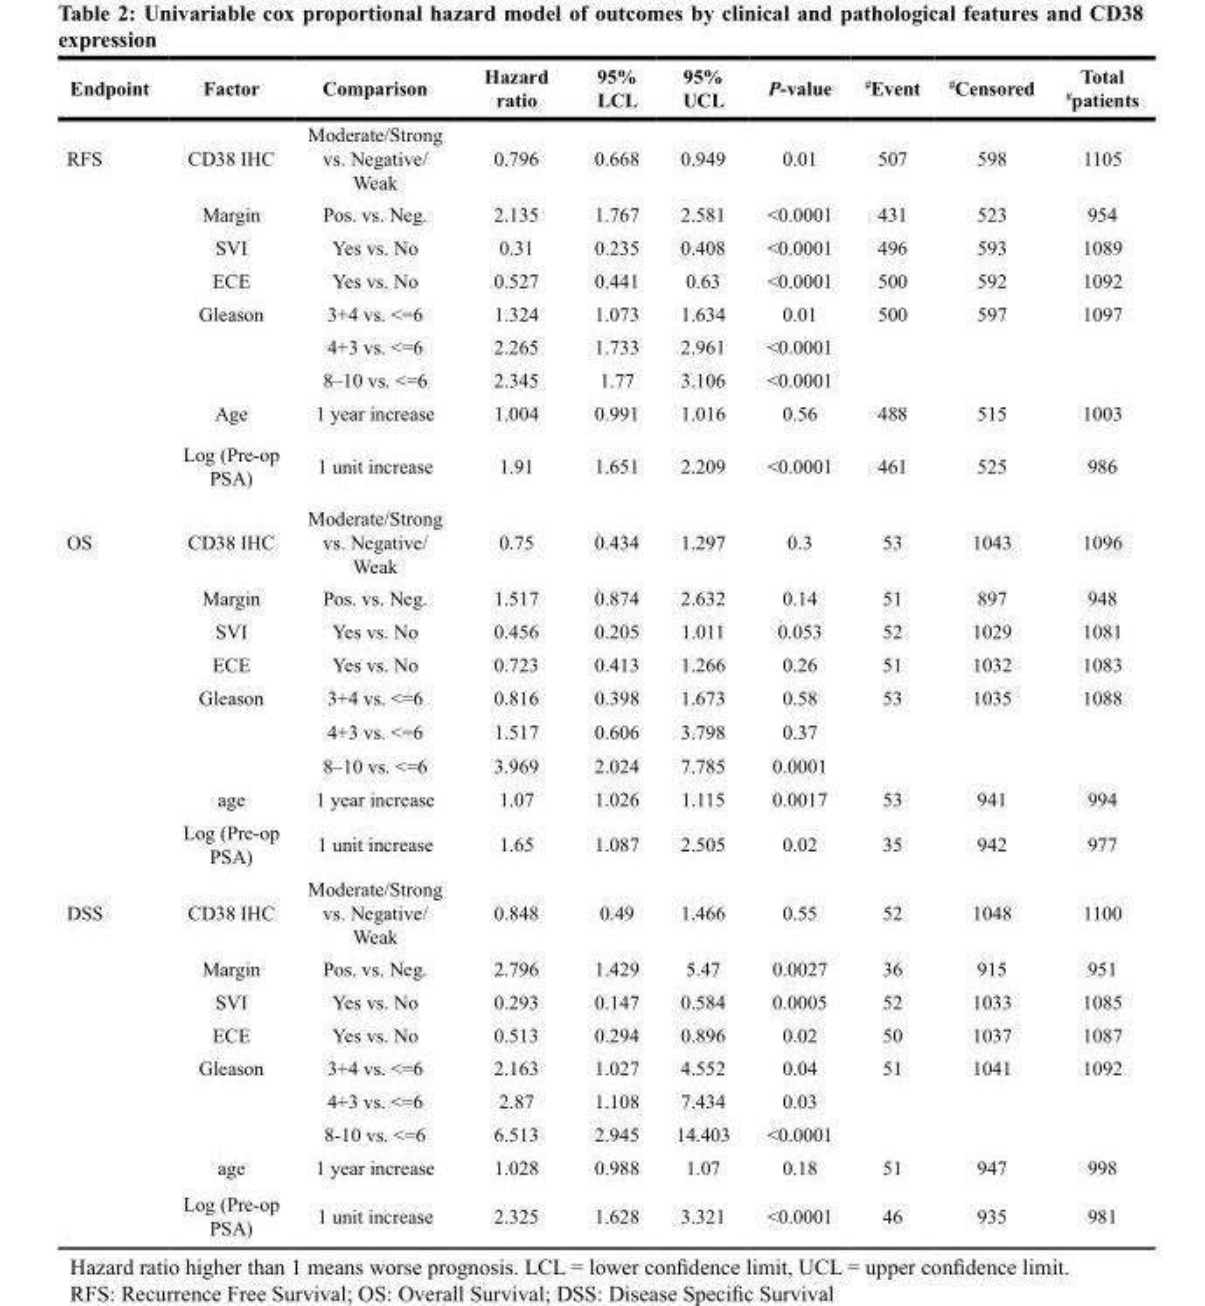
<table><thead><tr><td>Endpoint</td><td>Factor</td><td>Comparison</td><td>Hazard ratio</td><td>95% LCL</td><td>95% UCL</td><td>P-value</td><td><sup>#</sup>Event</td><td><sup>#</sup>Censored</td><td>Total <sup>#</sup>patients</td></tr></thead><tbody><tr><td rowspan="9">RFS</td><td>CD38 IHC</td><td>Moderate/Strong vs. Negative/ Weak</td><td>0.796</td><td>0.668</td><td>0.949</td><td>0.01</td><td>507</td><td>598</td><td>1105</td></tr><tr><td>Margin</td><td>Pos. vs. Neg.</td><td>2.135</td><td>1.767</td><td>2.581</td><td>&lt;0.0001</td><td>431</td><td>523</td><td>954</td></tr><tr><td>SVI</td><td>Yes vs. No</td><td>0.31</td><td>0.235</td><td>0.408</td><td>&lt;0.0001</td><td>496</td><td>593</td><td>1089</td></tr><tr><td>ECE</td><td>Yes vs. No</td><td>0.527</td><td>0.441</td><td>0.63</td><td>&lt;0.0001</td><td>500</td><td>592</td><td>1092</td></tr><tr><td>Gleason</td><td>3+4 vs. &lt;=6</td><td>1.324</td><td>1.073</td><td>1.634</td><td>0.01</td><td>500</td><td>597</td><td>1097</td></tr><tr><td></td><td>4+3 vs. &lt;=6</td><td>2.265</td><td>1.733</td><td>2.961</td><td>&lt;0.0001</td><td></td><td></td><td></td></tr><tr><td></td><td>8–10 vs. &lt;=6</td><td>2.345</td><td>1.77</td><td>3.106</td><td>&lt;0.0001</td><td></td><td></td><td></td></tr><tr><td>Age</td><td>1 year increase</td><td>1.004</td><td>0.991</td><td>1.016</td><td>0.56</td><td>488</td><td>515</td><td>1003</td></tr><tr><td>Log (Pre-op PSA)</td><td>1 unit increase</td><td>1.91</td><td>1.651</td><td>2.209</td><td>&lt;0.0001</td><td>461</td><td>525</td><td>986</td></tr><tr><td rowspan="9">OS</td><td>CD38 IHC</td><td>Moderate/Strong vs. Negative/ Weak</td><td>0.75</td><td>0.434</td><td>1.297</td><td>0.3</td><td>53</td><td>1043</td><td>1096</td></tr><tr><td>Margin</td><td>Pos. vs. Neg.</td><td>1.517</td><td>0.874</td><td>2.632</td><td>0.14</td><td>51</td><td>897</td><td>948</td></tr><tr><td>SVI</td><td>Yes vs. No</td><td>0.456</td><td>0.205</td><td>1.011</td><td>0.053</td><td>52</td><td>1029</td><td>1081</td></tr><tr><td>ECE</td><td>Yes vs. No</td><td>0.723</td><td>0.413</td><td>1.266</td><td>0.26</td><td>51</td><td>1032</td><td>1083</td></tr><tr><td>Gleason</td><td>3+4 vs. &lt;=6</td><td>0.816</td><td>0.398</td><td>1.673</td><td>0.58</td><td>53</td><td>1035</td><td>1088</td></tr><tr><td></td><td>4+3 vs. &lt;=6</td><td>1.517</td><td>0.606</td><td>3.798</td><td>0.37</td><td></td><td></td><td></td></tr><tr><td></td><td>8–10 vs. &lt;=6</td><td>3.969</td><td>2.024</td><td>7.785</td><td>0.0001</td><td></td><td></td><td></td></tr><tr><td>age</td><td>1 year increase</td><td>1.07</td><td>1.026</td><td>1.115</td><td>0.0017</td><td>53</td><td>941</td><td>994</td></tr><tr><td>Log (Pre-op PSA)</td><td>1 unit increase</td><td>1.65</td><td>1.087</td><td>2.505</td><td>0.02</td><td>35</td><td>942</td><td>977</td></tr><tr><td rowspan="9">DSS</td><td>CD38 IHC</td><td>Moderate/Strong vs. Negative/ Weak</td><td>0.848</td><td>0.49</td><td>1.466</td><td>0.55</td><td>52</td><td>1048</td><td>1100</td></tr><tr><td>Margin</td><td>Pos. vs. Neg.</td><td>2.796</td><td>1.429</td><td>5.47</td><td>0.0027</td><td>36</td><td>915</td><td>951</td></tr><tr><td>SVI</td><td>Yes vs. No</td><td>0.293</td><td>0.147</td><td>0.584</td><td>0.0005</td><td>52</td><td>1033</td><td>1085</td></tr><tr><td>ECE</td><td>Yes vs. No</td><td>0.513</td><td>0.294</td><td>0.896</td><td>0.02</td><td>50</td><td>1037</td><td>1087</td></tr><tr><td>Gleason</td><td>3+4 vs. &lt;=6</td><td>2.163</td><td>1.027</td><td>4.552</td><td>0.04</td><td>51</td><td>1041</td><td>1092</td></tr><tr><td></td><td>4+3 vs. &lt;=6</td><td>2.87</td><td>1.108</td><td>7.434</td><td>0.03</td><td></td><td></td><td></td></tr><tr><td></td><td>8-10 vs. &lt;=6</td><td>6.513</td><td>2.945</td><td>14.403</td><td>&lt;0.0001</td><td></td><td></td><td></td></tr><tr><td>age</td><td>1 year increase</td><td>1.028</td><td>0.988</td><td>1.07</td><td>0.18</td><td>51</td><td>947</td><td>998</td></tr><tr><td>Log (Pre-op PSA)</td><td>1 unit increase</td><td>2.325</td><td>1.628</td><td>3.321</td><td>&lt;0.0001</td><td>46</td><td>935</td><td>981</td></tr></tbody></table>